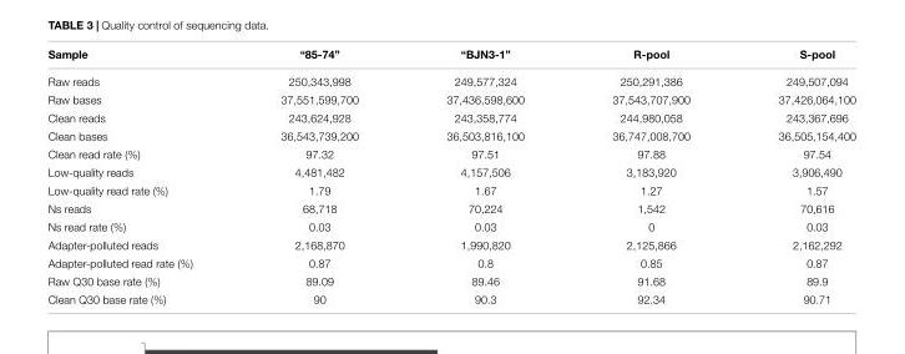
<table><thead><tr><td>Sample</td><td>“85-74”</td><td>“BJN3-1”</td><td>R-pool</td><td>S-pool</td></tr></thead><tbody><tr><td>Raw reads</td><td>250,343,998</td><td>249,577,324</td><td>250,291,386</td><td>249,507,094</td></tr><tr><td>Raw bases</td><td>37,551,599,700</td><td>37,436,598,600</td><td>37,543,707,900</td><td>37,426,064,100</td></tr><tr><td>Clean reads</td><td>243,624,928</td><td>243,358,774</td><td>244,980,058</td><td>243,367,696</td></tr><tr><td>Clean bases</td><td>36,543,739,200</td><td>36,503,816,100</td><td>36,747,008,700</td><td>36,505,154,400</td></tr><tr><td>Clean read rate (%)</td><td>97.32</td><td>97.51</td><td>97.88</td><td>97.54</td></tr><tr><td>Low-quality reads</td><td>4,481,482</td><td>4,157,506</td><td>3,183,920</td><td>3,906,490</td></tr><tr><td>Low-quality read rate (%)</td><td>1.79</td><td>1.67</td><td>1.27</td><td>1.57</td></tr><tr><td>Ns reads</td><td>68,718</td><td>70,224</td><td>1,542</td><td>70,616</td></tr><tr><td>Ns read rate (%)</td><td>0.03</td><td>0.03</td><td>0</td><td>0.03</td></tr><tr><td>Adapter-polluted reads</td><td>2,168,870</td><td>1,990,820</td><td>2,125,866</td><td>2,162,292</td></tr><tr><td>Adapter-polluted read rate (%)</td><td>0.87</td><td>0.8</td><td>0.85</td><td>0.87</td></tr><tr><td>Raw Q30 base rate (%)</td><td>89.09</td><td>89.46</td><td>91.68</td><td>89.9</td></tr><tr><td>Clean Q30 base rate (%)</td><td>90</td><td>90.3</td><td>92.34</td><td>90.71</td></tr></tbody></table>